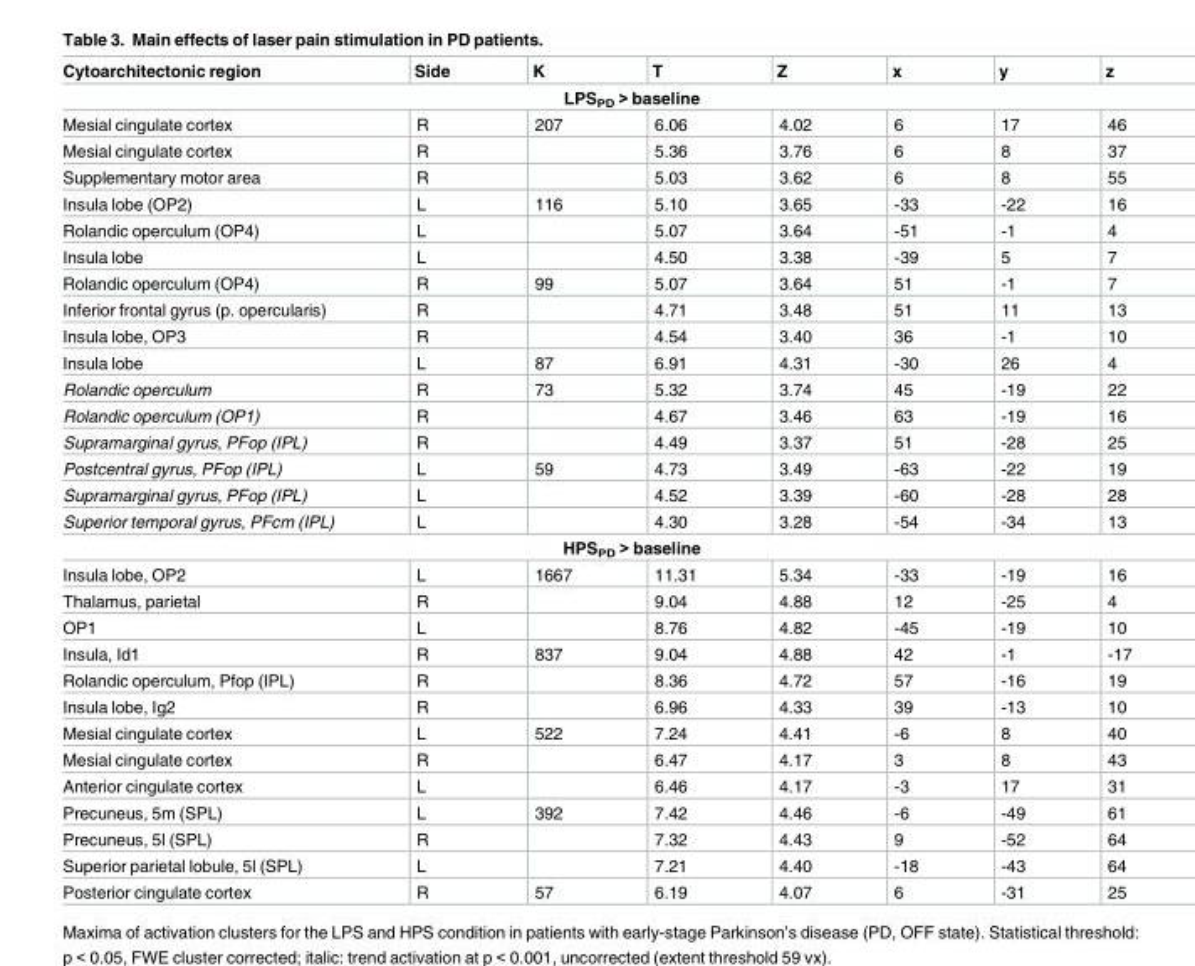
<table><thead><tr><td>Cytoarchitectonic region</td><td>Side</td><td>K</td><td>T</td><td>Z</td><td>x</td><td>y</td><td>z</td></tr></thead><tbody><tr><td colspan="8">LPS<sub>PD</sub> &gt; baseline</td></tr><tr><td>Mesial cingulate cortex</td><td>R</td><td>207</td><td>6.06</td><td>4.02</td><td>6</td><td>17</td><td>46</td></tr><tr><td>Mesial cingulate cortex</td><td>R</td><td></td><td>5.36</td><td>3.76</td><td>6</td><td>8</td><td>37</td></tr><tr><td>Supplementary motor area</td><td>R</td><td></td><td>5.03</td><td>3.62</td><td>6</td><td>8</td><td>55</td></tr><tr><td>Insula lobe (OP2)</td><td>L</td><td>116</td><td>5.10</td><td>3.65</td><td>-33</td><td>-22</td><td>16</td></tr><tr><td>Rolandic operculum (OP4)</td><td>L</td><td></td><td>5.07</td><td>3.64</td><td>-51</td><td>-1</td><td>4</td></tr><tr><td>Insula lobe</td><td>L</td><td></td><td>4.50</td><td>3.38</td><td>-39</td><td>5</td><td>7</td></tr><tr><td>Rolandic operculum (OP4)</td><td>R</td><td>99</td><td>5.07</td><td>3.64</td><td>51</td><td>-1</td><td>7</td></tr><tr><td>Inferior frontal gyrus (p. opercularis)</td><td>R</td><td></td><td>4.71</td><td>3.48</td><td>51</td><td>11</td><td>13</td></tr><tr><td>Insula lobe, OP3</td><td>R</td><td></td><td>4.54</td><td>3.40</td><td>36</td><td>-1</td><td>10</td></tr><tr><td>Insula lobe</td><td>L</td><td>87</td><td>6.91</td><td>4.31</td><td>-30</td><td>26</td><td>4</td></tr><tr><td>Rolandic operculum</td><td>R</td><td>73</td><td>5.32</td><td>3.74</td><td>45</td><td>-19</td><td>22</td></tr><tr><td>Rolandic operculum (OP1)</td><td>R</td><td></td><td>4.67</td><td>3.46</td><td>63</td><td>-19</td><td>16</td></tr><tr><td>Supramarginal gyrus, PFop (IPL)</td><td>R</td><td></td><td>4.49</td><td>3.37</td><td>51</td><td>-28</td><td>25</td></tr><tr><td>Postcentral gyrus, PFop (IPL)</td><td>L</td><td>59</td><td>4.73</td><td>3.49</td><td>-63</td><td>-22</td><td>19</td></tr><tr><td>Supramarginal gyrus, PFop (IPL)</td><td>L</td><td></td><td>4.52</td><td>3.39</td><td>-60</td><td>-28</td><td>28</td></tr><tr><td>Superior temporal gyrus, PFcm (IPL)</td><td>L</td><td></td><td>4.30</td><td>3.28</td><td>-54</td><td>-34</td><td>13</td></tr><tr><td colspan="8">HPS<sub>PD</sub> &gt; baseline</td></tr><tr><td>Insula lobe, OP2</td><td>L</td><td>1667</td><td>11.31</td><td>5.34</td><td>-33</td><td>-19</td><td>16</td></tr><tr><td>Thalamus, parietal</td><td>R</td><td></td><td>9.04</td><td>4.88</td><td>12</td><td>-25</td><td>4</td></tr><tr><td>OP1</td><td>L</td><td></td><td>8.76</td><td>4.82</td><td>-45</td><td>-19</td><td>10</td></tr><tr><td>Insula, Id1</td><td>R</td><td>837</td><td>9.04</td><td>4.88</td><td>42</td><td>-1</td><td>-17</td></tr><tr><td>Rolandic operculum, Pfop (IPL)</td><td>R</td><td></td><td>8.36</td><td>4.72</td><td>57</td><td>-16</td><td>19</td></tr><tr><td>Insula lobe, Ig2</td><td>R</td><td></td><td>6.96</td><td>4.33</td><td>39</td><td>-13</td><td>10</td></tr><tr><td>Mesial cingulate cortex</td><td>L</td><td>522</td><td>7.24</td><td>4.41</td><td>-6</td><td>8</td><td>40</td></tr><tr><td>Mesial cingulate cortex</td><td>R</td><td></td><td>6.47</td><td>4.17</td><td>3</td><td>8</td><td>43</td></tr><tr><td>Anterior cingulate cortex</td><td>L</td><td></td><td>6.46</td><td>4.17</td><td>-3</td><td>17</td><td>31</td></tr><tr><td>Precuneus, 5m (SPL)</td><td>L</td><td>392</td><td>7.42</td><td>4.46</td><td>-6</td><td>-49</td><td>61</td></tr><tr><td>Precuneus, 5l (SPL)</td><td>R</td><td></td><td>7.32</td><td>4.43</td><td>9</td><td>-52</td><td>64</td></tr><tr><td>Superior parietal lobule, 5l (SPL)</td><td>L</td><td></td><td>7.21</td><td>4.40</td><td>-18</td><td>-43</td><td>64</td></tr><tr><td>Posterior cingulate cortex</td><td>R</td><td>57</td><td>6.19</td><td>4.07</td><td>6</td><td>-31</td><td>25</td></tr></tbody></table>